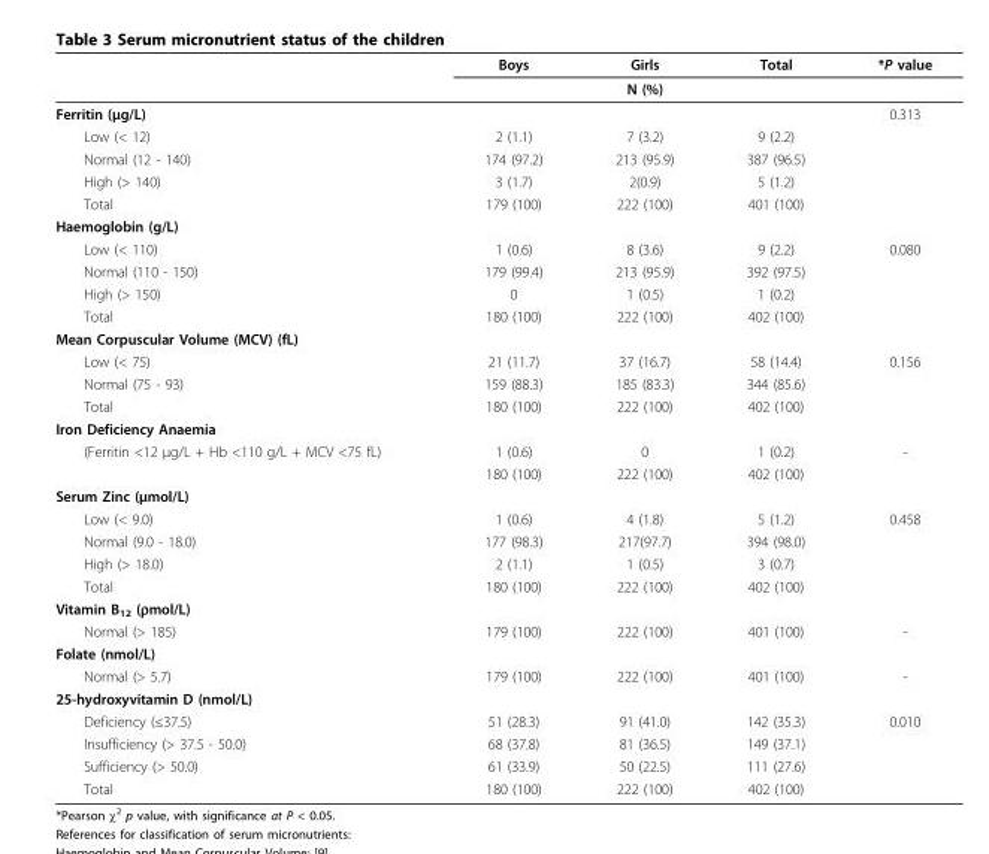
<table><thead><tr><td rowspan="2"></td><td rowspan="2">Boys</td><td rowspan="2">Girls N (%)</td><td rowspan="2">Total</td><td rowspan="2">*P value</td></tr><tr></tr></thead><tbody><tr><td>Ferritin (μg/L)</td><td></td><td></td><td></td><td>0.313</td></tr><tr><td>Low (&lt; 12)</td><td>2 (1.1)</td><td>7 (3.2)</td><td>9 (2.2)</td><td></td></tr><tr><td>Normal (12 - 140)</td><td>174 (97.2)</td><td>213 (95.9)</td><td>387 (96.5)</td><td></td></tr><tr><td>High (&gt; 140)</td><td>3 (1.7)</td><td>2(0.9)</td><td>5 (1.2)</td><td></td></tr><tr><td>Total</td><td>179 (100)</td><td>222 (100)</td><td>401 (100)</td><td></td></tr><tr><td colspan="5">Haemoglobin (g/L)</td></tr><tr><td>Low (&lt; 110)</td><td>1 (0.6)</td><td>8 (3.6)</td><td>9 (2.2)</td><td>0.080</td></tr><tr><td>Normal (110 - 150)</td><td>179 (99.4)</td><td>213 (95.9)</td><td>392 (97.5)</td><td></td></tr><tr><td>High (&gt; 150)</td><td>0</td><td>1 (0.5)</td><td>1 (0.2)</td><td></td></tr><tr><td>Total</td><td>180 (100)</td><td>222 (100)</td><td>402 (100)</td><td></td></tr><tr><td colspan="5">Mean Corpuscular Volume (MCV) (fL)</td></tr><tr><td>Low (&lt; 75)</td><td>21 (11.7)</td><td>37 (16.7)</td><td>58 (14.4)</td><td>0.156</td></tr><tr><td>Normal (75 - 93)</td><td>159 (88.3)</td><td>185 (83.3)</td><td>344 (85.6)</td><td></td></tr><tr><td>Total</td><td>180 (100)</td><td>222 (100)</td><td>402 (100)</td><td></td></tr><tr><td colspan="5">Iron Deficiency Anaemia</td></tr><tr><td rowspan="2">(Ferritin &lt;12 μg/L + Hb &lt;110 g/L + MCV &lt;75 fL)</td><td>1 (0.6)</td><td>0</td><td>1 (0.2)</td><td>-</td></tr><tr><td>180 (100)</td><td>222 (100)</td><td>402 (100)</td><td></td></tr><tr><td colspan="5">Serum Zinc (μmol/L)</td></tr><tr><td>Low (&lt; 9.0)</td><td>1 (0.6)</td><td>4 (1.8)</td><td>5 (1.2)</td><td>0.458</td></tr><tr><td>Normal (9.0 - 18.0)</td><td>177 (98.3)</td><td>217(97.7)</td><td>394 (98.0)</td><td></td></tr><tr><td>High (&gt; 18.0)</td><td>2 (1.1)</td><td>1 (0.5)</td><td>3 (0.7)</td><td></td></tr><tr><td>Total</td><td>180 (100)</td><td>222 (100)</td><td>402 (100)</td><td></td></tr><tr><td colspan="5">Vitamin B<sub>12</sub> (ρmol/L)</td></tr><tr><td>Normal (&gt; 185)</td><td>179 (100)</td><td>222 (100)</td><td>401 (100)</td><td>-</td></tr><tr><td colspan="5">Folate (nmol/L)</td></tr><tr><td>Normal (&gt; 5.7)</td><td>179 (100)</td><td>222 (100)</td><td>401 (100)</td><td>-</td></tr><tr><td colspan="5">25-hydroxyvitamin D (nmol/L)</td></tr><tr><td>Deficiency (≤37.5)</td><td>51 (28.3)</td><td>91 (41.0)</td><td>142 (35.3)</td><td>0.010</td></tr><tr><td>Insufficiency (&gt; 37.5 - 50.0)</td><td>68 (37.8)</td><td>81 (36.5)</td><td>149 (37.1)</td><td></td></tr><tr><td>Sufficiency (&gt; 50.0)</td><td>61 (33.9)</td><td>50 (22.5)</td><td>111 (27.6)</td><td></td></tr><tr><td>Total</td><td>180 (100)</td><td>222 (100)</td><td>402 (100)</td><td></td></tr></tbody></table>